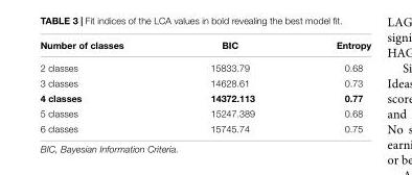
<table><thead><tr><td>Number of classes</td><td>BIC</td><td>Entropy</td></tr></thead><tbody><tr><td>2 classes</td><td>15833.79</td><td>0.68</td></tr><tr><td>3 classes</td><td>14628.61</td><td>0.73</td></tr><tr><td>4 classes</td><td>14372.113</td><td>0.77</td></tr><tr><td>5 classes</td><td>15247.389</td><td>0.68</td></tr><tr><td>6 classes</td><td>15745.74</td><td>0.75</td></tr></tbody></table>